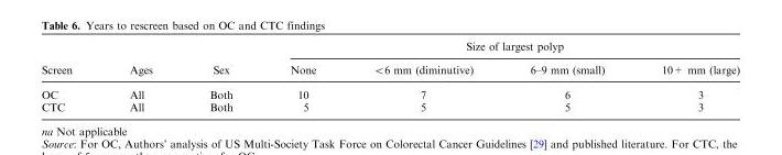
<table><thead><tr><td rowspan="2">Screen</td><td rowspan="2">Ages</td><td rowspan="2">Sex</td><td colspan="4">Size of largest polyp</td></tr><tr><td>None</td><td>&lt;6 mm (diminutive)</td><td>6–9 mm (small)</td><td>10+ mm (large)</td></tr></thead><tbody><tr><td>OC</td><td>All</td><td>Both</td><td>10</td><td>7</td><td>6</td><td>3</td></tr><tr><td>CTC</td><td>All</td><td>Both</td><td>5</td><td>5</td><td>5</td><td>3</td></tr></tbody></table>